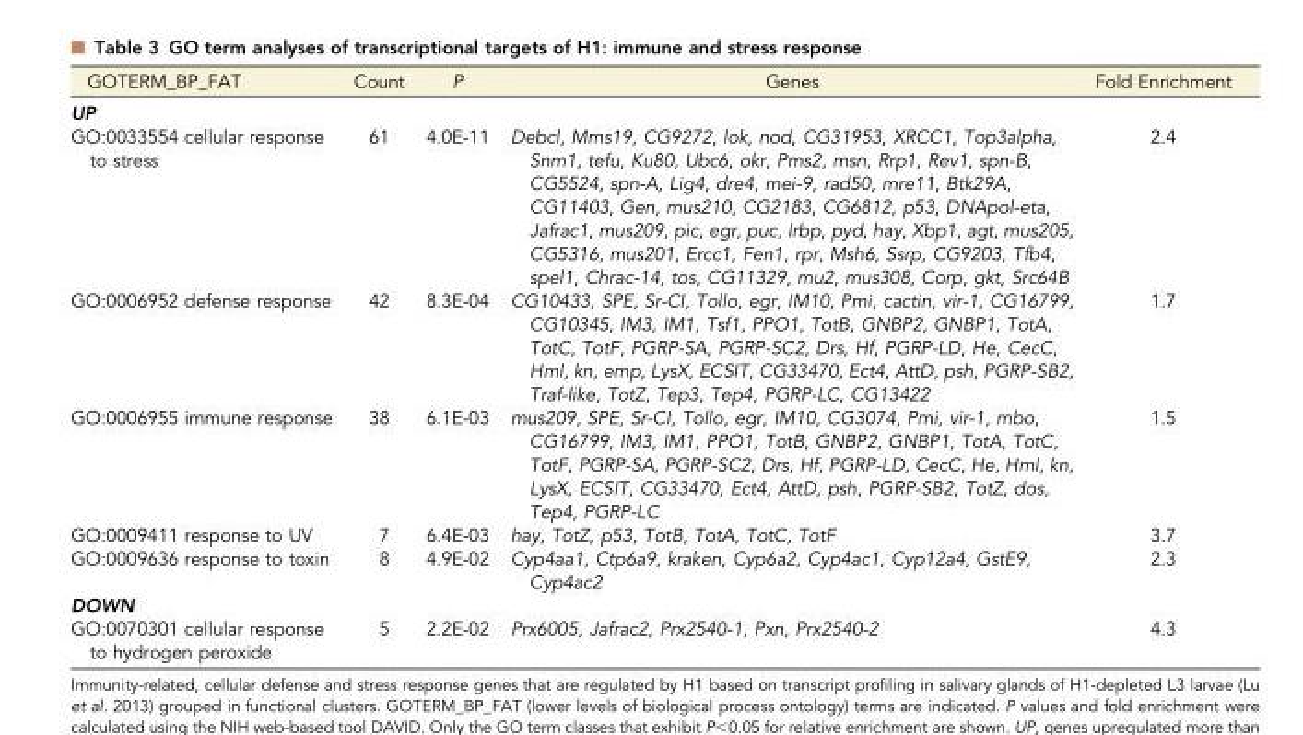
<table><thead><tr><td>GOTERM_BP_FAT</td><td>Count</td><td>P</td><td>Genes</td><td>Fold Enrichment</td></tr></thead><tbody><tr><td colspan="5">UP</td></tr><tr><td>GO:0033554 cellular response to stress</td><td>61</td><td>4.0E-11</td><td>Debcl, Mms19, CG9272, lok, nod, CG31953, XRCC1, Top3alpha, Snm1, tefu, Ku80, Ubc6, okr, Pms2, msn, Rrp1, Rev1, spn-B, CG5524, spn-A, Lig4, dre4, mei-9, rad50, mre11, Btk29A, CG11403, Gen, mus210, CG2183, CG6812, p53, DNApol-eta, Jafrac1, mus209, pic, egr, puc, Irbp, pyd, hay, Xbp1, agt, mus205, CG5316, mus201, Ercc1, Fen1, rpr, Msh6, Ssrp, CG9203, Tfb4, spel1, Chrac-14, tos, CG11329, mu2, mus308, Corp, gkt, Src64B</td><td>2.4</td></tr><tr><td>GO:0006952 defense response</td><td>42</td><td>8.3E-04</td><td>CG10433, SPE, Sr-CI, Tollo, egr, IM10, Pmi, cactin, vir-1, CG16799, CG10345, IM3, IM1, Tsf1, PPO1, TotB, GNBP2, GNBP1, TotA, TotC, TotF, PGRP-SA, PGRP-SC2, Drs, Hf, PGRP-LD, He, CecC, Hml, kn, emp, LysX, ECSIT, CG33470, Ect4, AttD, psh, PGRP-SB2, Traf-like, TotZ, Tep3, Tep4, PGRP-LC, CG13422</td><td>1.7</td></tr><tr><td>GO:0006955 immune response</td><td>38</td><td>6.1E-03</td><td>mus209, SPE, Sr-CI, Tollo, egr, IM10, CG3074, Pmi, vir-1, mbo, CG16799, IM3, IM1, PPO1, TotB, GNBP2, GNBP1, TotA, TotC, TotF, PGRP-SA, PGRP-SC2, Drs, Hf, PGRP-LD, CecC, He, Hml, kn, LysX, ECSIT, CG33470, Ect4, AttD, psh, PGRP-SB2, TotZ, dos, Tep4, PGRP-LC</td><td>1.5</td></tr><tr><td>GO:0009411 response to UV</td><td>7</td><td>6.4E-03</td><td>hay, TotZ, p53, TotB, TotA, TotC, TotF</td><td>3.7</td></tr><tr><td>GO:0009636 response to toxin</td><td>8</td><td>4.9E-02</td><td>Cyp4aa1, Ctp6a9, kraken, Cyp6a2, Cyp4ac1, Cyp12a4, GstE9, Cyp4ac2</td><td>2.3</td></tr><tr><td colspan="5">DOWN</td></tr><tr><td>GO:0070301 cellular response to hydrogen peroxide</td><td>5</td><td>2.2E-02</td><td>Prx6005, Jafrac2, Prx2540-1, Pxn, Prx2540-2</td><td>4.3</td></tr></tbody></table>